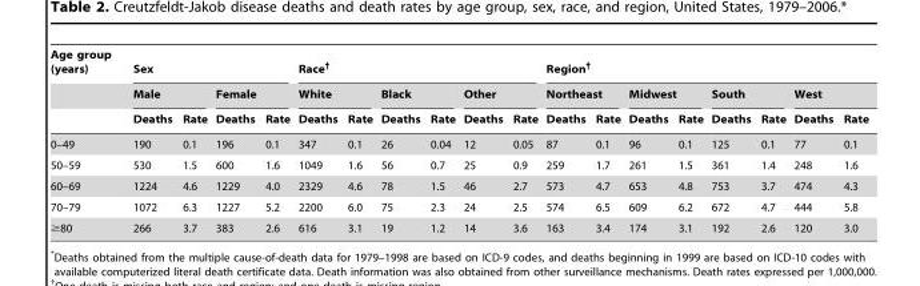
<table><thead><tr><td rowspan="3">Age group (years)</td><td colspan="4">Sex</td><td colspan="6">Race†</td><td colspan="8">Region†</td></tr><tr><td colspan="2">Male</td><td colspan="2">Female</td><td colspan="2">White</td><td colspan="2">Black</td><td colspan="2">Other</td><td colspan="2">Northeast</td><td colspan="2">Midwest</td><td colspan="2">South</td><td colspan="2">West</td></tr><tr><td>Deaths</td><td>Rate</td><td>Deaths</td><td>Rate</td><td>Deaths</td><td>Rate</td><td>Deaths</td><td>Rate</td><td>Deaths</td><td>Rate</td><td>Deaths</td><td>Rate</td><td>Deaths</td><td>Rate</td><td>Deaths</td><td>Rate</td><td>Deaths</td><td>Rate</td></tr></thead><tbody><tr><td>0–49</td><td>190</td><td>0.1</td><td>196</td><td>0.1</td><td>347</td><td>0.1</td><td>26</td><td>0.04</td><td>12</td><td>0.05</td><td>87</td><td>0.1</td><td>96</td><td>0.1</td><td>125</td><td>0.1</td><td>77</td><td>0.1</td></tr><tr><td>50–59</td><td>530</td><td>1.5</td><td>600</td><td>1.6</td><td>1049</td><td>1.6</td><td>56</td><td>0.7</td><td>25</td><td>0.9</td><td>259</td><td>1.7</td><td>261</td><td>1.5</td><td>361</td><td>1.4</td><td>248</td><td>1.6</td></tr><tr><td>60–69</td><td>1224</td><td>4.6</td><td>1229</td><td>4.0</td><td>2329</td><td>4.6</td><td>78</td><td>1.5</td><td>46</td><td>2.7</td><td>573</td><td>4.7</td><td>653</td><td>4.8</td><td>753</td><td>3.7</td><td>474</td><td>4.3</td></tr><tr><td>70–79</td><td>1072</td><td>6.3</td><td>1227</td><td>5.2</td><td>2200</td><td>6.0</td><td>75</td><td>2.3</td><td>24</td><td>2.5</td><td>574</td><td>6.5</td><td>609</td><td>6.2</td><td>672</td><td>4.7</td><td>444</td><td>5.8</td></tr><tr><td>≥80</td><td>266</td><td>3.7</td><td>383</td><td>2.6</td><td>616</td><td>3.1</td><td>19</td><td>1.2</td><td>14</td><td>3.6</td><td>163</td><td>3.4</td><td>174</td><td>3.1</td><td>192</td><td>2.6</td><td>120</td><td>3.0</td></tr></tbody></table>